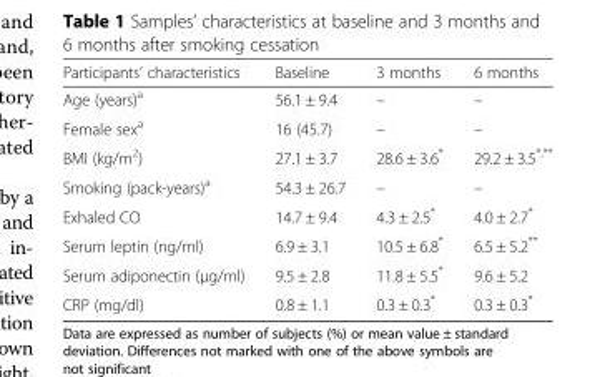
<table><thead><tr><td>Participants’ characteristics</td><td>Baseline</td><td>3 months</td><td>6 months</td></tr></thead><tbody><tr><td>Age (years)<sup>a</sup></td><td>56.1 ± 9.4</td><td>–</td><td>–</td></tr><tr><td>Female sex<sup>a</sup></td><td>16 (45.7)</td><td>–</td><td>–</td></tr><tr><td>BMI (kg/m<sup>2</sup>)</td><td>27.1 ± 3.7</td><td>28.6 ± 3.6*</td><td>29.2 ± 3.5<sup>*,**</sup></td></tr><tr><td>Smoking (pack-years)<sup>a</sup></td><td>54.3 ± 26.7</td><td>–</td><td>–</td></tr><tr><td>Exhaled CO</td><td>14.7 ± 9.4</td><td>4.3 ± 2.5*</td><td>4.0 ± 2.7*</td></tr><tr><td>Serum leptin (ng/ml)</td><td>6.9 ± 3.1</td><td>10.5 ± 6.8*</td><td>6.5 ± 5.2**</td></tr><tr><td>Serum adiponectin (μg/ml)</td><td>9.5 ± 2.8</td><td>11.8 ± 5.5*</td><td>9.6 ± 5.2</td></tr><tr><td>CRP (mg/dl)</td><td>0.8 ± 1.1</td><td>0.3 ± 0.3*</td><td>0.3 ± 0.3*</td></tr></tbody></table>